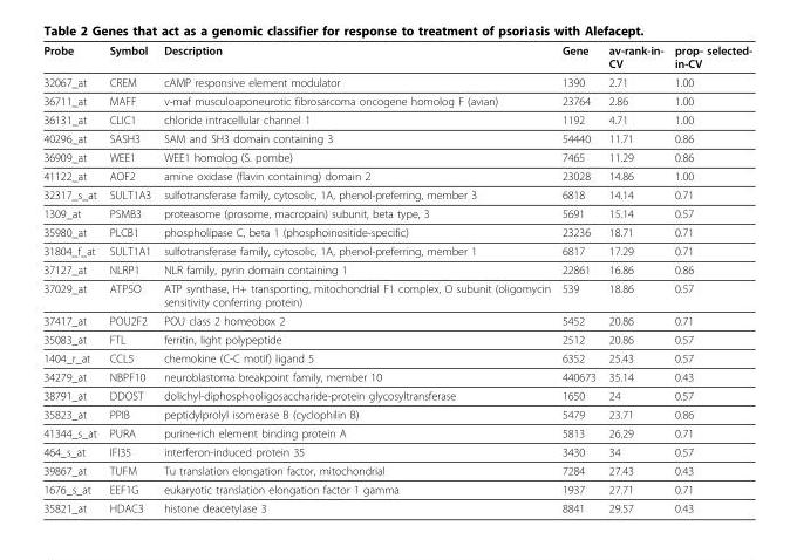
<table><thead><tr><td>Probe</td><td>Symbol</td><td>Description</td><td>Gene</td><td>av-rank-in- CV</td><td>prop- selected- in-CV</td></tr></thead><tbody><tr><td>32067_at</td><td>CREM</td><td>cAMP responsive element modulator</td><td>1390</td><td>2.71</td><td>1.00</td></tr><tr><td>36711_at</td><td>MAFF</td><td>v-maf musculoaponeurotic fibrosarcoma oncogene homolog F (avian)</td><td>23764</td><td>2.86</td><td>1.00</td></tr><tr><td>36131_at</td><td>CLIC1</td><td>chloride intracellular channel 1</td><td>1192</td><td>4.71</td><td>1.00</td></tr><tr><td>40296_at</td><td>SASH3</td><td>SAM and SH3 domain containing 3</td><td>54440</td><td>11.71</td><td>0.86</td></tr><tr><td>36909_at</td><td>WEE1</td><td>WEE1 homolog (S. pombe)</td><td>7465</td><td>11.29</td><td>0.86</td></tr><tr><td>41122_at</td><td>AOF2</td><td>amine oxidase (flavin containing) domain 2</td><td>23028</td><td>14.86</td><td>1.00</td></tr><tr><td>32317_s_at</td><td>SULT1A3</td><td>sulfotransferase family, cytosolic, 1A, phenol-preferring, member 3</td><td>6818</td><td>14.14</td><td>0.71</td></tr><tr><td>1309_at</td><td>PSMB3</td><td>proteasome (prosome, macropain) subunit, beta type, 3</td><td>5691</td><td>15.14</td><td>0.57</td></tr><tr><td>35980_at</td><td>PLCB1</td><td>phospholipase C, beta 1 (phosphoinositide-specific)</td><td>23236</td><td>18.71</td><td>0.71</td></tr><tr><td>31804_f_at</td><td>SULT1A1</td><td>sulfotransferase family, cytosolic, 1A, phenol-preferring, member 1</td><td>6817</td><td>17.29</td><td>0.71</td></tr><tr><td>37127_at</td><td>NLRP1</td><td>NLR family, pyrin domain containing 1</td><td>22861</td><td>16.86</td><td>0.86</td></tr><tr><td>37029_at</td><td>ATP5O</td><td>ATP synthase, H+ transporting, mitochondrial F1 complex, O subunit (oligomycin sensitivity conferring protein)</td><td>539</td><td>18.86</td><td>0.57</td></tr><tr><td>37417_at</td><td>POU2F2</td><td>POU class 2 homeobox 2</td><td>5452</td><td>20.86</td><td>0.71</td></tr><tr><td>35083_at</td><td>FTL</td><td>ferritin, light polypeptide</td><td>2512</td><td>20.86</td><td>0.57</td></tr><tr><td>1404_r_at</td><td>CCL5</td><td>chemokine (C-C motif) ligand 5</td><td>6352</td><td>25.43</td><td>0.57</td></tr><tr><td>34279_at</td><td>NBPF10</td><td>neuroblastoma breakpoint family, member 10</td><td>440673</td><td>35.14</td><td>0.43</td></tr><tr><td>38791_at</td><td>DDOST</td><td>dolichyl-diphosphooligosaccharide-protein glycosyltransferase</td><td>1650</td><td>24</td><td>0.57</td></tr><tr><td>35823_at</td><td>PPIB</td><td>peptidylprolyl isomerase B (cyclophilin B)</td><td>5479</td><td>23.71</td><td>0.86</td></tr><tr><td>41344_s_at</td><td>PURA</td><td>purine-rich element binding protein A</td><td>5813</td><td>26.29</td><td>0.71</td></tr><tr><td>464_s_at</td><td>IFI35</td><td>interferon-induced protein 35</td><td>3430</td><td>34</td><td>0.57</td></tr><tr><td>39867_at</td><td>TUFM</td><td>Tu translation elongation factor, mitochondrial</td><td>7284</td><td>27.43</td><td>0.43</td></tr><tr><td>1676_s_at</td><td>EEF1G</td><td>eukaryotic translation elongation factor 1 gamma</td><td>1937</td><td>27.71</td><td>0.71</td></tr><tr><td>35821_at</td><td>HDAC3</td><td>histone deacetylase 3</td><td>8841</td><td>29.57</td><td>0.43</td></tr></tbody></table>